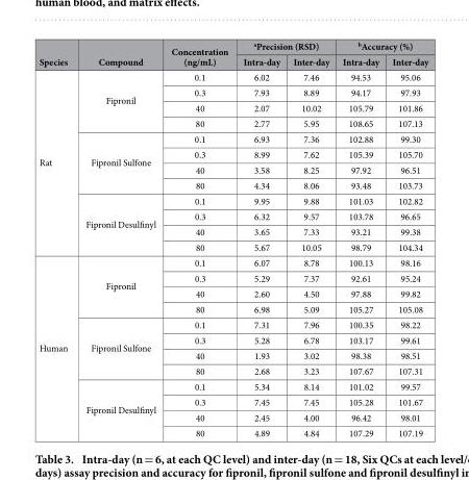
<table><thead><tr><td rowspan="2">Species</td><td rowspan="2">Compound</td><td rowspan="2">Concentration (ng/mL)</td><td colspan="2">aPrecision (RSD)</td><td colspan="2">bAccuracy (%)</td></tr><tr><td>Intra-day</td><td>Inter-day</td><td>Intra-day</td><td>Inter-day</td></tr></thead><tbody><tr><td rowspan="12">Rat</td><td rowspan="4">Fipronil</td><td>0.1</td><td>6.02</td><td>7.46</td><td>94.53</td><td>95.06</td></tr><tr><td>0.3</td><td>7.93</td><td>8.89</td><td>94.17</td><td>97.93</td></tr><tr><td>40</td><td>2.07</td><td>10.02</td><td>105.79</td><td>101.86</td></tr><tr><td>80</td><td>2.77</td><td>5.95</td><td>108.65</td><td>107.13</td></tr><tr><td rowspan="4">Fipronil Sulfone</td><td>0.1</td><td>6.93</td><td>7.36</td><td>102.88</td><td>99.30</td></tr><tr><td>0.3</td><td>8.99</td><td>7.62</td><td>105.39</td><td>105.70</td></tr><tr><td>40</td><td>3.58</td><td>8.25</td><td>97.92</td><td>96.51</td></tr><tr><td>80</td><td>4.34</td><td>8.06</td><td>93.48</td><td>103.73</td></tr><tr><td rowspan="4">Fipronil Desulfinyl</td><td>0.1</td><td>9.95</td><td>9.88</td><td>101.03</td><td>102.82</td></tr><tr><td>0.3</td><td>6.32</td><td>9.57</td><td>103.78</td><td>96.65</td></tr><tr><td>40</td><td>3.65</td><td>7.33</td><td>93.21</td><td>99.38</td></tr><tr><td>80</td><td>5.67</td><td>10.05</td><td>98.79</td><td>104.34</td></tr><tr><td rowspan="12">Human</td><td rowspan="4">Fipronil</td><td>0.1</td><td>6.07</td><td>8.78</td><td>100.13</td><td>98.16</td></tr><tr><td>0.3</td><td>5.29</td><td>7.37</td><td>92.61</td><td>95.24</td></tr><tr><td>40</td><td>2.60</td><td>4.50</td><td>97.88</td><td>99.82</td></tr><tr><td>80</td><td>6.98</td><td>5.09</td><td>105.27</td><td>105.08</td></tr><tr><td rowspan="4">Fipronil Sulfone</td><td>0.1</td><td>7.31</td><td>7.96</td><td>100.35</td><td>98.22</td></tr><tr><td>0.3</td><td>5.28</td><td>6.78</td><td>103.17</td><td>99.61</td></tr><tr><td>40</td><td>1.93</td><td>3.02</td><td>98.38</td><td>98.51</td></tr><tr><td>80</td><td>2.68</td><td>3.23</td><td>107.67</td><td>107.31</td></tr><tr><td rowspan="4">Fipronil Desulfinyl</td><td>0.1</td><td>5.34</td><td>8.14</td><td>101.02</td><td>99.57</td></tr><tr><td>0.3</td><td>7.45</td><td>7.45</td><td>105.28</td><td>101.67</td></tr><tr><td>40</td><td>2.45</td><td>4.00</td><td>96.42</td><td>98.01</td></tr><tr><td>80</td><td>4.89</td><td>4.84</td><td>107.29</td><td>107.19</td></tr></tbody></table>